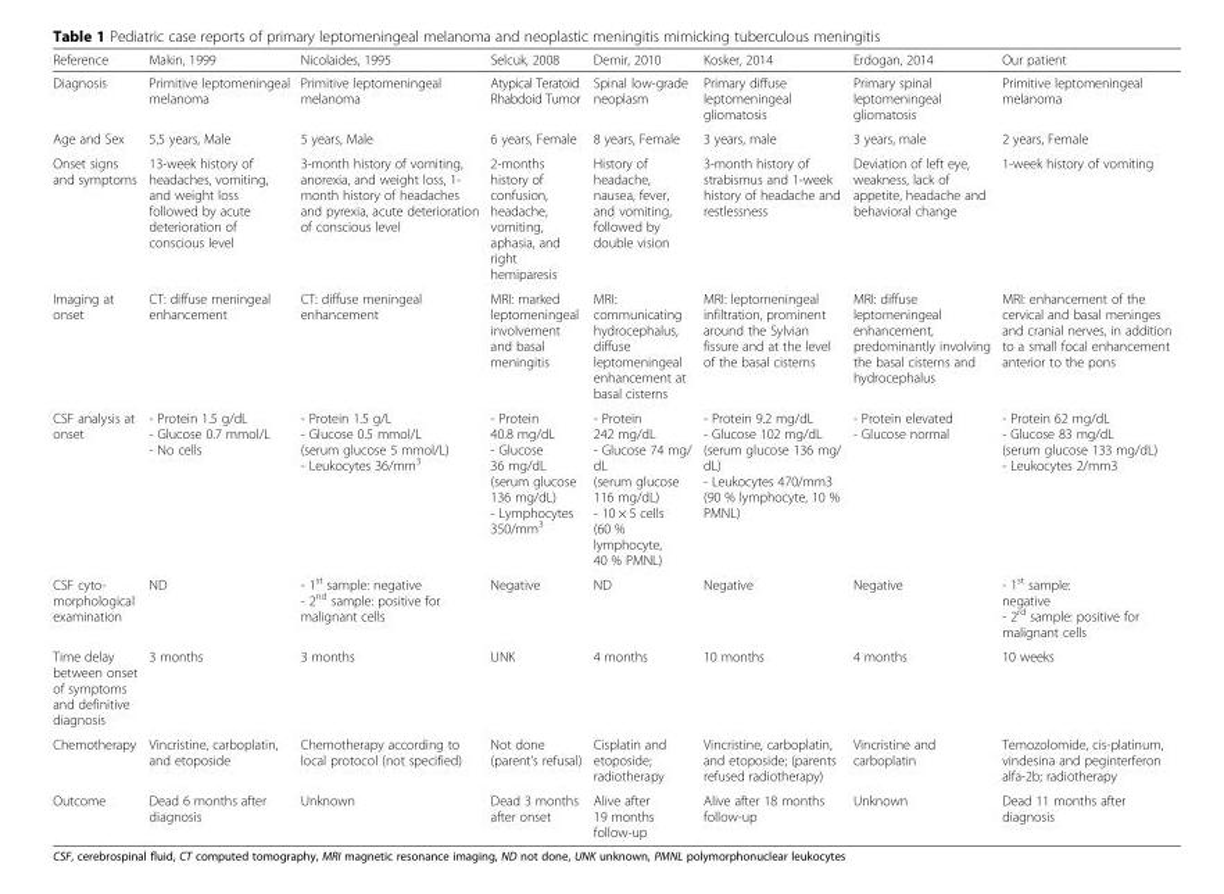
<table><thead><tr><td>Reference</td><td>Makin, 1999</td><td>Nicolaides, 1995</td><td>Selcuk, 2008</td><td>Demir, 2010</td><td>Kosker, 2014</td><td>Erdogan, 2014</td><td>Our patient</td></tr></thead><tbody><tr><td>Diagnosis</td><td>Primitive leptomeningeal melanoma</td><td>Primitive leptomeningeal melanoma</td><td>Atypical Teratoid Rhabdoid Tumor</td><td>Spinal low-grade neoplasm</td><td>Primary diffuse leptomeningeal gliomatosis</td><td>Primary spinal leptomeningeal gliomatosis</td><td>Primitive leptomeningeal melanoma</td></tr><tr><td>Age and Sex</td><td>5,5 years, Male</td><td>5 years, Male</td><td>6 years, Female</td><td>8 years, Female</td><td>3 years, male</td><td>3 years, male</td><td>2 years, Female</td></tr><tr><td>Onset signs and symptoms</td><td>13-week history of headaches, vomiting, and weight loss followed by acute deterioration of conscious level</td><td>3-month history of vomiting, anorexia, and weight loss, 1- month history of headaches and pyrexia, acute deterioration of conscious level</td><td>2-months history of confusion, headache, vomiting, aphasia, and right hemiparesis</td><td>History of headache, nausea, fever, and vomiting, followed by double vision</td><td>3-month history of strabismus and 1-week history of headache and restlessness</td><td>Deviation of left eye, weakness, lack of appetite, headache and behavioral change</td><td>1-week history of vomiting</td></tr><tr><td>Imaging at onset</td><td>CT: diffuse meningeal enhancement</td><td>CT: diffuse meningeal enhancement</td><td>MRI: marked leptomeningeal involvement and basal meningitis</td><td>MRI: communicating hydrocephalus, diffuse leptomeningeal enhancement at basal cisterns</td><td>MRI: leptomeningeal infiltration, prominent around the Sylvian fissure and at the level of the basal cisterns</td><td>MRI: diffuse leptomeningeal enhancement, predominantly involving the basal cisterns and hydrocephalus</td><td>MRI: enhancement of the cervical and basal meninges and cranial nerves, in addition to a small focal enhancement anterior to the pons</td></tr><tr><td>CSF analysis at onset</td><td>- Protein 1.5 g/dL - Glucose 0.7 mmol/L - No cells</td><td>- Protein 1.5 g/L - Glucose 0.5 mmol/L (serum glucose 5 mmol/L) - Leukocytes 36/mm<sup>3</sup></td><td>- Protein 40.8 mg/dL - Glucose 36 mg/dL (serum glucose 136 mg/dL) - Lymphocytes 350/mm<sup>3</sup></td><td>- Protein 242 mg/dL - Glucose 74 mg/ dL (serum glucose 116 mg/dL) - 10 × 5 cells (60 % lymphocyte, 40 % PMNL)</td><td>- Protein 9.2 mg/dL - Glucose 102 mg/dL (serum glucose 136 mg/ dL) - Leukocytes 470/mm3 (90 % lymphocyte, 10 % PMNL)</td><td>- Protein elevated - Glucose normal</td><td>- Protein 62 mg/dL - Glucose 83 mg/dL (serum glucose 133 mg/dL) - Leukocytes 2/mm3</td></tr><tr><td>CSF cyto- morphological examination</td><td>ND</td><td>- 1<sup>st</sup> sample: negative - 2<sup>nd</sup> sample: positive for malignant cells</td><td>Negative</td><td>ND</td><td>Negative</td><td>Negative</td><td>- 1<sup>st</sup> sample: negative - 2<sup>rd</sup> sample: positive for malignant cells</td></tr><tr><td>Time delay between onset of symptoms and definitive diagnosis</td><td>3 months</td><td>3 months</td><td>UNK</td><td>4 months</td><td>10 months</td><td>4 months</td><td>10 weeks</td></tr><tr><td>Chemotherapy</td><td>Vincristine, carboplatin, and etoposide</td><td>Chemotherapy according to local protocol (not specified)</td><td>Not done (parent’s refusal)</td><td>Cisplatin and etoposide; radiotherapy</td><td>Vincristine, carboplatin, and etoposide; (parents refused radiotherapy)</td><td>Vincristine and carboplatin</td><td>Temozolomide, cis-platinum, vindesina and peginterferon alfa-2b; radiotherapy</td></tr><tr><td>Outcome</td><td>Dead 6 months after diagnosis</td><td>Unknown</td><td>Dead 3 months after onset</td><td>Alive after 19 months follow-up</td><td>Alive after 18 months follow-up</td><td>Unknown</td><td>Dead 11 months after diagnosis</td></tr></tbody></table>